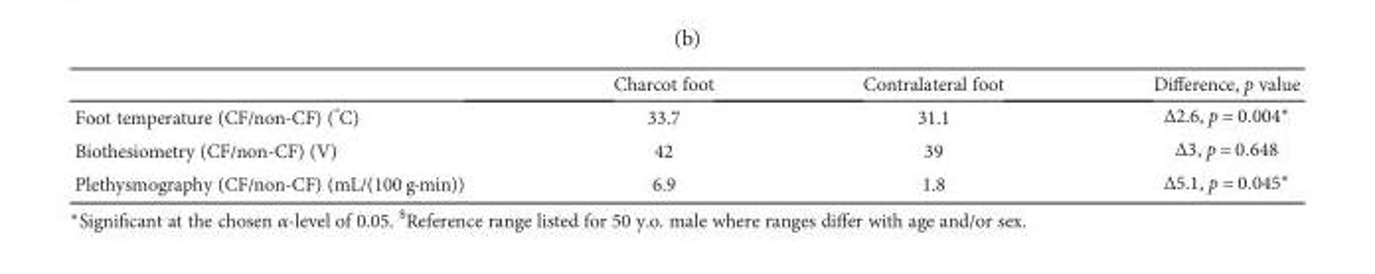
<table><thead><tr><td></td><td>Charcot foot</td><td>Contralateral foot</td><td>Difference, p value</td></tr></thead><tbody><tr><td>Foot temperature (CF/non-CF) (°C)</td><td>33.7</td><td>31.1</td><td>Δ2.6, p = 0 004∗</td></tr><tr><td>Biothesiometry (CF/non-CF) (V)</td><td>42</td><td>39</td><td>Δ3, p = 0 648</td></tr><tr><td>Plethysmography (CF/non-CF) (mL/(100 g·min))</td><td>6.9</td><td>1.8</td><td>Δ5.1, p = 0 045∗</td></tr></tbody></table>